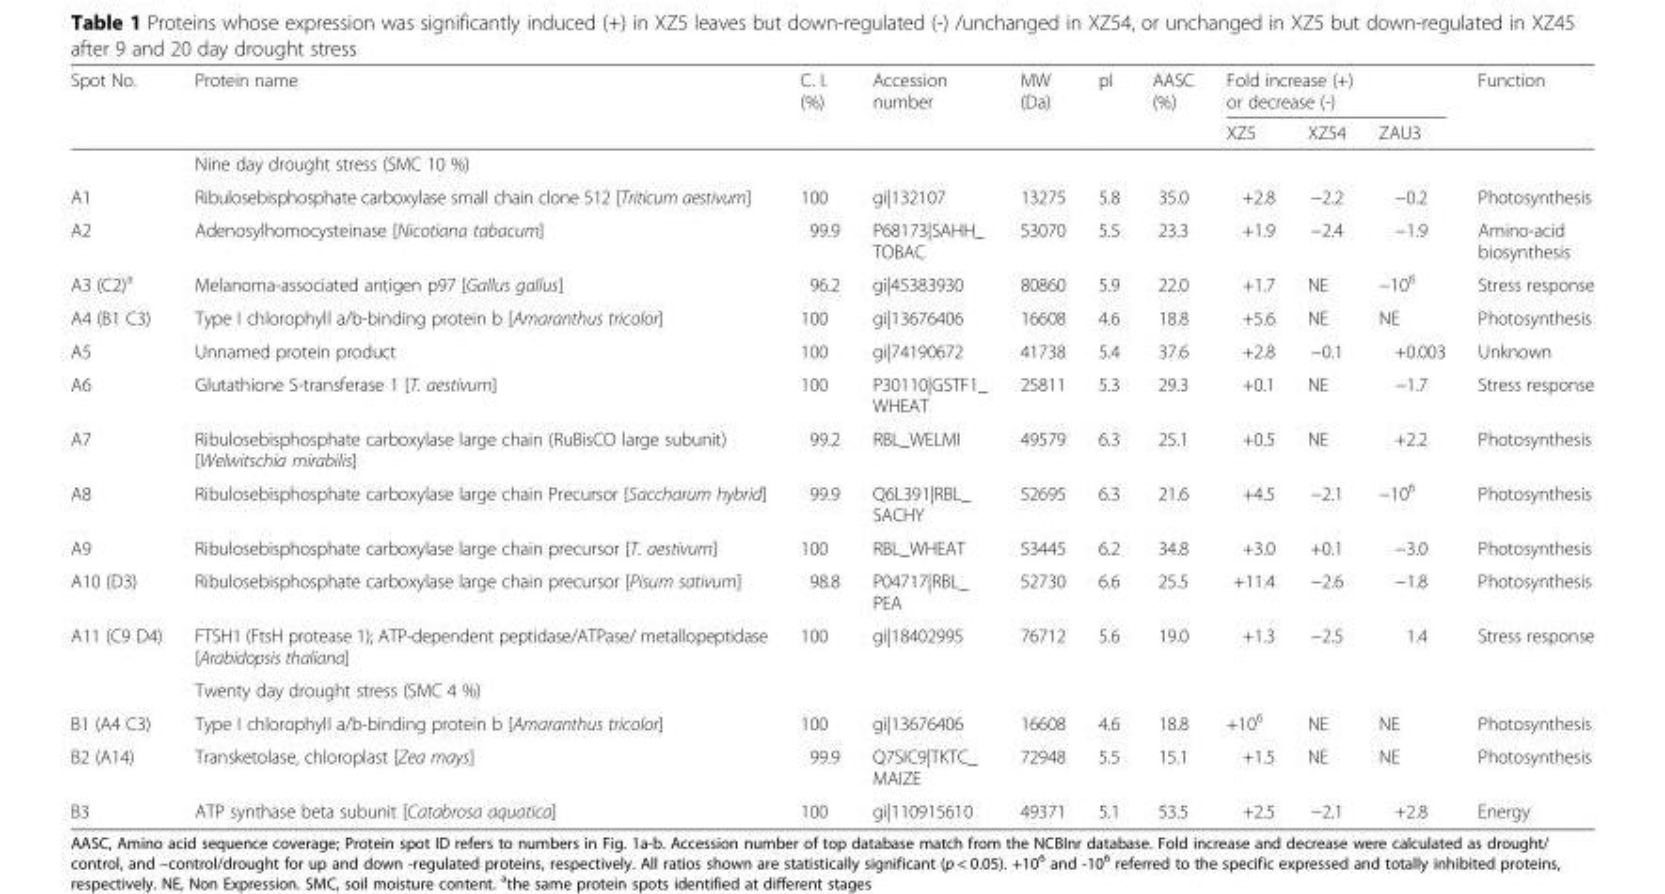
<table><thead><tr><td rowspan="2">Spot No.</td><td rowspan="2">Protein name</td><td rowspan="2">C. I. (%)</td><td rowspan="2">Accession number</td><td rowspan="2">MW (Da)</td><td rowspan="2">pI</td><td rowspan="2">AASC (%)</td><td colspan="3">Fold increase (+) or decrease (-)</td><td rowspan="2">Function</td></tr><tr><td>XZ5</td><td>XZ54</td><td>ZAU3</td></tr></thead><tbody><tr><td></td><td colspan="10">Nine day drought stress (SMC 10 %)</td></tr><tr><td>A1</td><td>Ribulosebisphosphate carboxylase small chain clone 512 [Triticum aestivum]</td><td>100</td><td>gi|132107</td><td>13275</td><td>5.8</td><td>35.0</td><td>+2.8</td><td>−2.2</td><td>−0.2</td><td>Photosynthesis</td></tr><tr><td>A2</td><td>Adenosylhomocysteinase [Nicotiana tabacum]</td><td>99.9</td><td>P68173|SAHH_ TOBAC</td><td>53070</td><td>5.5</td><td>23.3</td><td>+1.9</td><td>−2.4</td><td>−1.9</td><td>Amino-acid biosynthesis</td></tr><tr><td>A3 (C2)<sup>a</sup></td><td>Melanoma-associated antigen p97 [Gallus gallus]</td><td>96.2</td><td>gi|45383930</td><td>80860</td><td>5.9</td><td>22.0</td><td>+1.7</td><td>NE</td><td>−10<sup>6</sup></td><td>Stress response</td></tr><tr><td>A4 (B1 C3)</td><td>Type I chlorophyll a/b-binding protein b [Amaranthus tricolor]</td><td>100</td><td>gi|13676406</td><td>16608</td><td>4.6</td><td>18.8</td><td>+5.6</td><td>NE</td><td>NE</td><td>Photosynthesis</td></tr><tr><td>A5</td><td>Unnamed protein product</td><td>100</td><td>gi|74190672</td><td>41738</td><td>5.4</td><td>37.6</td><td>+2.8</td><td>−0.1</td><td>+0.003</td><td>Unknown</td></tr><tr><td>A6</td><td>Glutathione S-transferase 1 [T. aestivum]</td><td>100</td><td>P30110|GSTF1_ WHEAT</td><td>25811</td><td>5.3</td><td>29.3</td><td>+0.1</td><td>NE</td><td>−1.7</td><td>Stress response</td></tr><tr><td>A7</td><td>Ribulosebisphosphate carboxylase large chain (RuBisCO large subunit) [Welwitschia mirabilis]</td><td>99.2</td><td>RBL_WELMI</td><td>49579</td><td>6.3</td><td>25.1</td><td>+0.5</td><td>NE</td><td>+2.2</td><td>Photosynthesis</td></tr><tr><td>A8</td><td>Ribulosebisphosphate carboxylase large chain Precursor [Saccharum hybrid]</td><td>99.9</td><td>Q6L391|RBL_ SACHY</td><td>52695</td><td>6.3</td><td>21.6</td><td>+4.5</td><td>−2.1</td><td>−10<sup>6</sup></td><td>Photosynthesis</td></tr><tr><td>A9</td><td>Ribulosebisphosphate carboxylase large chain precursor [T. aestivum]</td><td>100</td><td>RBL_WHEAT</td><td>53445</td><td>6.2</td><td>34.8</td><td>+3.0</td><td>+0.1</td><td>−3.0</td><td>Photosynthesis</td></tr><tr><td>A10 (D3)</td><td>Ribulosebisphosphate carboxylase large chain precursor [Pisum sativum]</td><td>98.8</td><td>P04717|RBL_ PEA</td><td>52730</td><td>6.6</td><td>25.5</td><td>+11.4</td><td>−2.6</td><td>−1.8</td><td>Photosynthesis</td></tr><tr><td rowspan="2">A11 (C9 D4)</td><td>FTSH1 (FtsH protease 1); ATP-dependent peptidase/ATPase/ metallopeptidase [Arabidopsis thaliana]</td><td>100</td><td>gi|18402995</td><td>76712</td><td>5.6</td><td>19.0</td><td>+1.3</td><td>−2.5</td><td>1.4</td><td>Stress response</td></tr><tr><td colspan="10">Twenty day drought stress (SMC 4 %)</td></tr><tr><td>B1 (A4 C3)</td><td>Type I chlorophyll a/b-binding protein b [Amaranthus tricolor]</td><td>100</td><td>gi|13676406</td><td>16608</td><td>4.6</td><td>18.8</td><td>+10<sup>6</sup></td><td>NE</td><td>NE</td><td>Photosynthesis</td></tr><tr><td>B2 (A14)</td><td>Transketolase, chloroplast [Zea mays]</td><td>99.9</td><td>Q7SIC9|TKTC_ MAIZE</td><td>72948</td><td>5.5</td><td>15.1</td><td>+1.5</td><td>NE</td><td>NE</td><td>Photosynthesis</td></tr><tr><td>B3</td><td>ATP synthase beta subunit [Catabrosa aquatica]</td><td>100</td><td>gi|110915610</td><td>49371</td><td>5.1</td><td>53.5</td><td>+2.5</td><td>−2.1</td><td>+2.8</td><td>Energy</td></tr></tbody></table>